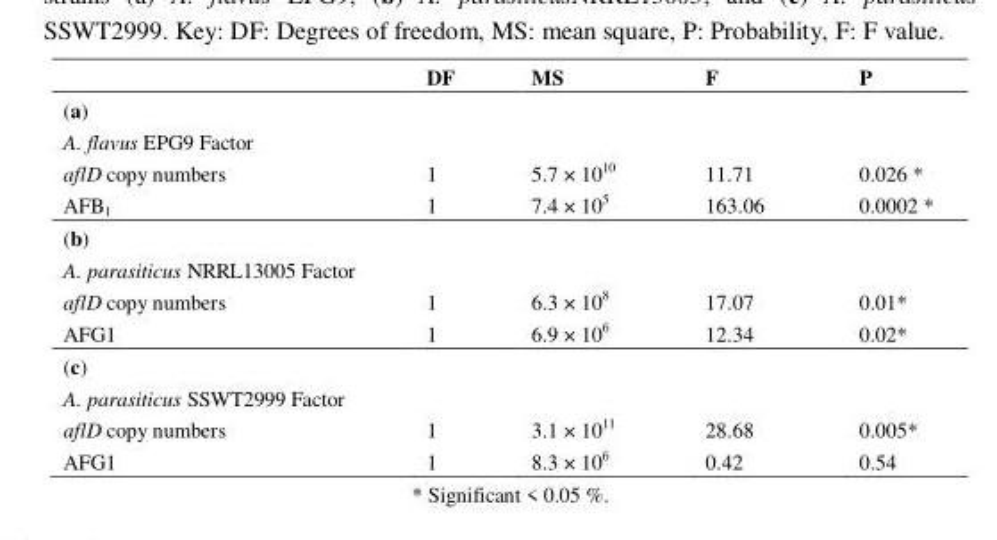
<table><thead><tr><td></td><td>DF</td><td>MS</td><td>F</td><td>P</td></tr></thead><tbody><tr><td colspan="5">(a)</td></tr><tr><td colspan="5">A. flavus EPG9 Factor</td></tr><tr><td>aflD copy numbers</td><td>1</td><td>5.7 × 10<sup>10</sup></td><td>11.71</td><td>0.026 *</td></tr><tr><td>AFB<sub>1</sub></td><td>1</td><td>7.4 × 10<sup>5</sup></td><td>163.06</td><td>0.0002 *</td></tr><tr><td colspan="5">(b)</td></tr><tr><td colspan="5">A. parasiticus NRRL13005 Factor</td></tr><tr><td>aflD copy numbers</td><td>1</td><td>6.3 × 10<sup>8</sup></td><td>17.07</td><td>0.01*</td></tr><tr><td>AFG1</td><td>1</td><td>6.9 × 10<sup>6</sup></td><td>12.34</td><td>0.02*</td></tr><tr><td colspan="5">(c)</td></tr><tr><td colspan="5">A. parasiticus SSWT2999 Factor</td></tr><tr><td>aflD copy numbers</td><td>1</td><td>3.1 × 10<sup>11</sup></td><td>28.68</td><td>0.005*</td></tr><tr><td>AFG1</td><td>1</td><td>8.3 × 10<sup>6</sup></td><td>0.42</td><td>0.54</td></tr></tbody></table>